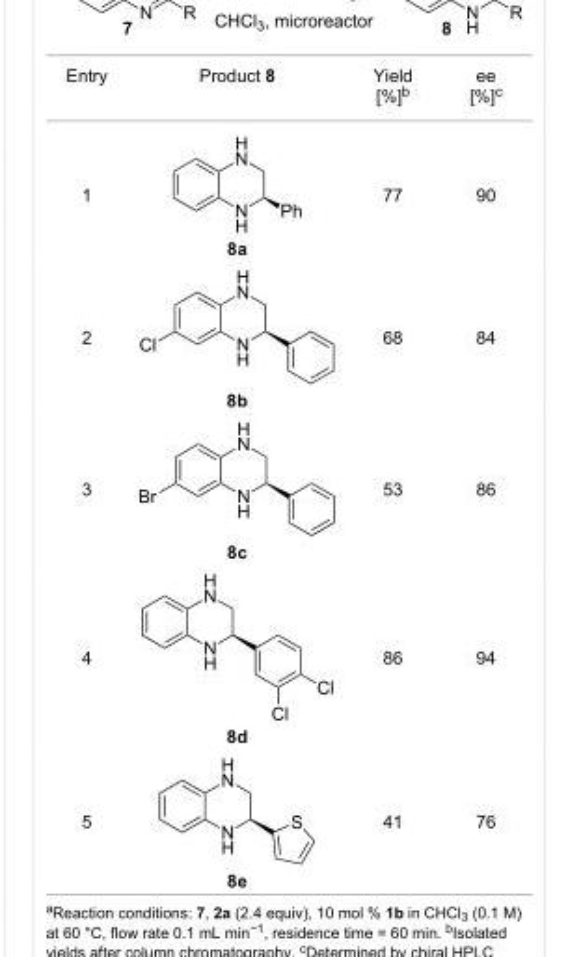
<table><tbody><tr><td>Entry</td><td>Product 8</td><td>Yield [%]<sup>b</sup></td><td>ee [%]<sup>c</sup></td></tr><tr><td>1</td><td>8a</td><td>77</td><td>90</td></tr><tr><td>2</td><td>8b</td><td>68</td><td>84</td></tr><tr><td>3</td><td>8c</td><td>53</td><td>86</td></tr><tr><td>4</td><td>8d</td><td>86</td><td>94</td></tr><tr><td>5</td><td>8e</td><td>41</td><td>76</td></tr></tbody></table>